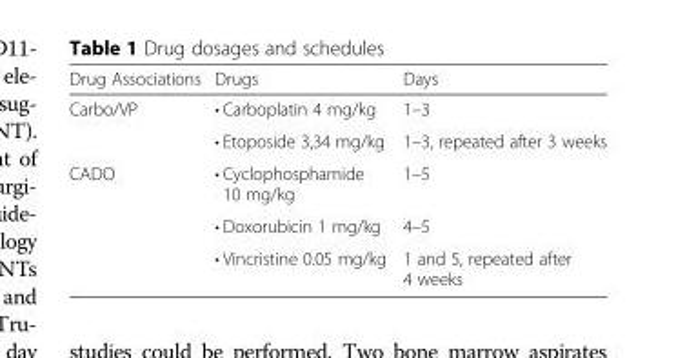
<table><thead><tr><td>Drug Associations</td><td>Drugs</td><td>Days</td></tr></thead><tbody><tr><td rowspan="2">Carbo/VP</td><td>• Carboplatin 4 mg/kg</td><td>1–3</td></tr><tr><td>• Etoposide 3,34 mg/kg</td><td>1–3, repeated after 3 weeks</td></tr><tr><td rowspan="3">CADO</td><td>• Cyclophosphamide 10 mg/kg</td><td>1–5</td></tr><tr><td>• Doxorubicin 1 mg/kg</td><td>4–5</td></tr><tr><td>• Vincristine 0.05 mg/kg</td><td>1 and 5, repeated after 4 weeks</td></tr></tbody></table>